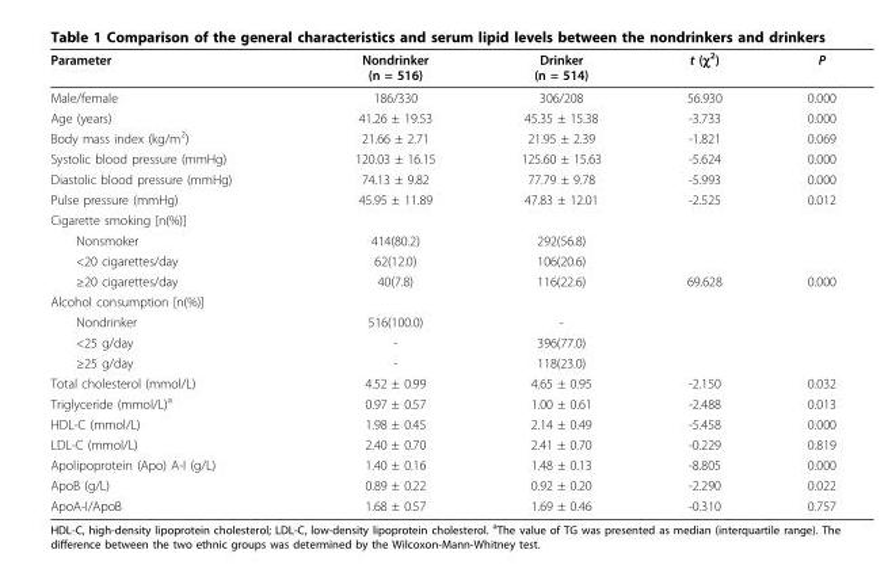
<table><thead><tr><td>Parameter</td><td>Nondrinker (n = 516)</td><td>Drinker (n = 514)</td><td>t (χ<sup>2</sup>)</td><td>P</td></tr></thead><tbody><tr><td>Male/female</td><td>186/330</td><td>306/208</td><td>56.930</td><td>0.000</td></tr><tr><td>Age (years)</td><td>41.26 ± 19.53</td><td>45.35 ± 15.38</td><td>-3.733</td><td>0.000</td></tr><tr><td>Body mass index (kg/m<sup>2</sup>)</td><td>21.66 ± 2.71</td><td>21.95 ± 2.39</td><td>-1.821</td><td>0.069</td></tr><tr><td>Systolic blood pressure (mmHg)</td><td>120.03 ± 16.15</td><td>125.60 ± 15.63</td><td>-5.624</td><td>0.000</td></tr><tr><td>Diastolic blood pressure (mmHg)</td><td>74.13 ± 9.82</td><td>77.79 ± 9.78</td><td>-5.993</td><td>0.000</td></tr><tr><td>Pulse pressure (mmHg)</td><td>45.95 ± 11.89</td><td>47.83 ± 12.01</td><td>-2.525</td><td>0.012</td></tr><tr><td colspan="5">Cigarette smoking [n(%)]</td></tr><tr><td>Nonsmoker</td><td>414(80.2)</td><td>292(56.8)</td><td></td><td></td></tr><tr><td>&lt;20 cigarettes/day</td><td>62(12.0)</td><td>106(20.6)</td><td></td><td></td></tr><tr><td>≥20 cigarettes/day</td><td>40(7.8)</td><td>116(22.6)</td><td>69.628</td><td>0.000</td></tr><tr><td colspan="5">Alcohol consumption [n(%)]</td></tr><tr><td>Nondrinker</td><td>516(100.0)</td><td>-</td><td></td><td></td></tr><tr><td>&lt;25 g/day</td><td>-</td><td>396(77.0)</td><td></td><td></td></tr><tr><td>≥25 g/day</td><td>-</td><td>118(23.0)</td><td></td><td></td></tr><tr><td>Total cholesterol (mmol/L)</td><td>4.52 ± 0.99</td><td>4.65 ± 0.95</td><td>-2.150</td><td>0.032</td></tr><tr><td>Triglyceride (mmol/L)<sup>a</sup></td><td>0.97 ± 0.57</td><td>1.00 ± 0.61</td><td>-2.488</td><td>0.013</td></tr><tr><td>HDL-C (mmol/L)</td><td>1.98 ± 0.45</td><td>2.14 ± 0.49</td><td>-5.458</td><td>0.000</td></tr><tr><td>LDL-C (mmol/L)</td><td>2.40 ± 0.70</td><td>2.41 ± 0.70</td><td>-0.229</td><td>0.819</td></tr><tr><td>Apolipoprotein (Apo) A-I (g/L)</td><td>1.40 ± 0.16</td><td>1.48 ± 0.13</td><td>-8.805</td><td>0.000</td></tr><tr><td>ApoB (g/L)</td><td>0.89 ± 0.22</td><td>0.92 ± 0.20</td><td>-2.290</td><td>0.022</td></tr><tr><td>ApoA-I/ApoB</td><td>1.68 ± 0.57</td><td>1.69 ± 0.46</td><td>-0.310</td><td>0.757</td></tr></tbody></table>